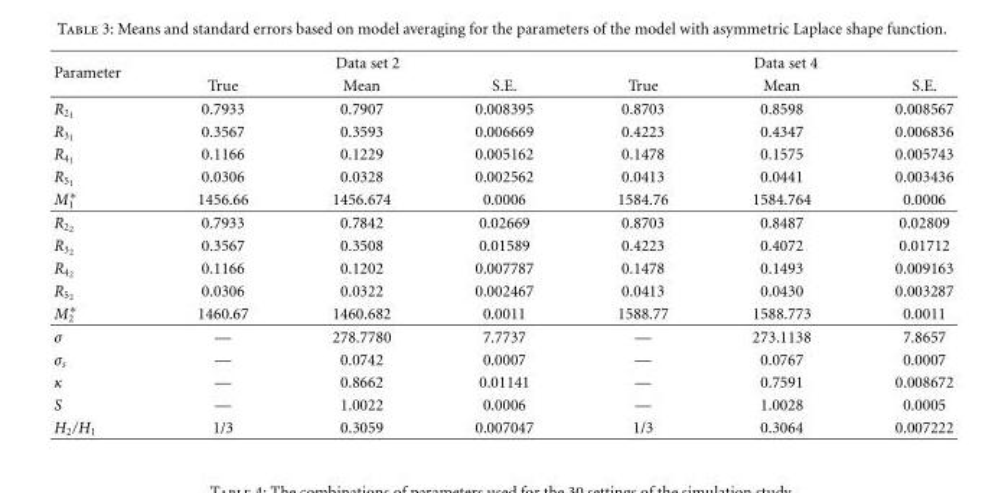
<table><thead><tr><td rowspan="2">Parameter</td><td colspan="3">Data set 2</td><td colspan="3">Data set 4</td></tr><tr><td>True</td><td>Mean</td><td>S.E.</td><td>True</td><td>Mean</td><td>S.E.</td></tr></thead><tbody><tr><td>R21</td><td>0.7933</td><td>0.7907</td><td>0.008395</td><td>0.8703</td><td>0.8598</td><td>0.008567</td></tr><tr><td>R31</td><td>0.3567</td><td>0.3593</td><td>0.006669</td><td>0.4223</td><td>0.4347</td><td>0.006836</td></tr><tr><td>R41</td><td>0.1166</td><td>0.1229</td><td>0.005162</td><td>0.1478</td><td>0.1575</td><td>0.005743</td></tr><tr><td>R51</td><td>0.0306</td><td>0.0328</td><td>0.002562</td><td>0.0413</td><td>0.0441</td><td>0.003436</td></tr><tr><td>M∗ 1</td><td>1456.66</td><td>1456.674</td><td>0.0006</td><td>1584.76</td><td>1584.764</td><td>0.0006</td></tr><tr><td>R22</td><td>0.7933</td><td>0.7842</td><td>0.02669</td><td>0.8703</td><td>0.8487</td><td>0.02809</td></tr><tr><td>R32</td><td>0.3567</td><td>0.3508</td><td>0.01589</td><td>0.4223</td><td>0.4072</td><td>0.01712</td></tr><tr><td>R42</td><td>0.1166</td><td>0.1202</td><td>0.007787</td><td>0.1478</td><td>0.1493</td><td>0.009163</td></tr><tr><td>R52</td><td>0.0306</td><td>0.0322</td><td>0.002467</td><td>0.0413</td><td>0.0430</td><td>0.003287</td></tr><tr><td>M∗ 2</td><td>1460.67</td><td>1460.682</td><td>0.0011</td><td>1588.77</td><td>1588.773</td><td>0.0011</td></tr><tr><td>σ</td><td>—</td><td>278.7780</td><td>7.7737</td><td>—</td><td>273.1138</td><td>7.8657</td></tr><tr><td>σ<sub>s</sub></td><td>—</td><td>0.0742</td><td>0.0007</td><td>—</td><td>0.0767</td><td>0.0007</td></tr><tr><td>κ</td><td>—</td><td>0.8662</td><td>0.01141</td><td>—</td><td>0.7591</td><td>0.008672</td></tr><tr><td>S</td><td>—</td><td>1.0022</td><td>0.0006</td><td>—</td><td>1.0028</td><td>0.0005</td></tr><tr><td>H<sub>2</sub>/H<sub>1</sub></td><td>1/3</td><td>0.3059</td><td>0.007047</td><td>1/3</td><td>0.3064</td><td>0.007222</td></tr></tbody></table>